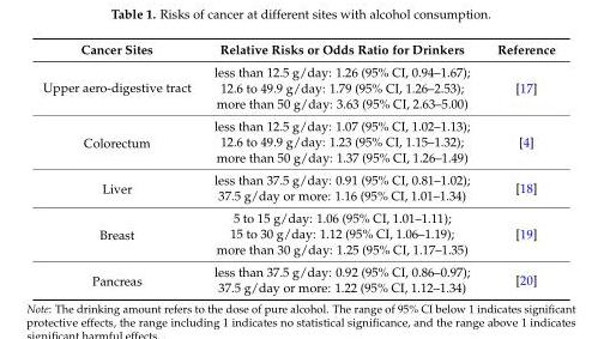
<table><thead><tr><td>Cancer Sites</td><td>Relative Risks or Odds Ratio for Drinkers</td><td>Reference</td></tr></thead><tbody><tr><td rowspan="3">Upper aero-digestive tract</td><td>less than 12.5 g/day: 1.26 (95% CI, 0.94–1.67);</td><td rowspan="3">[17]</td></tr><tr><td>12.6 to 49.9 g/day: 1.79 (95% CI, 1.26–2.53);</td></tr><tr><td>more than 50 g/day: 3.63 (95% CI, 2.63–5.00)</td></tr><tr><td rowspan="3">Colorectum</td><td>less than 12.5 g/day: 1.07 (95% CI, 1.02–1.13);</td><td rowspan="3">[4]</td></tr><tr><td>12.6 to 49.9 g/day: 1.23 (95% CI, 1.15–1.32);</td></tr><tr><td>more than 50 g/day: 1.37 (95% CI, 1.26–1.49)</td></tr><tr><td rowspan="2">Liver</td><td>less than 37.5 g/day: 0.91 (95% CI, 0.81–1.02);</td><td rowspan="2">[18]</td></tr><tr><td>37.5 g/day or more: 1.16 (95% CI, 1.01–1.34)</td></tr><tr><td rowspan="3">Breast</td><td>5 to 15 g/day: 1.06 (95% CI, 1.01–1.11);</td><td rowspan="3">[19]</td></tr><tr><td>15 to 30 g/day: 1.12 (95% CI, 1.06–1.19);</td></tr><tr><td>more than 30 g/day: 1.25 (95% CI, 1.17–1.35)</td></tr><tr><td rowspan="2">Pancreas</td><td>less than 37.5 g/day: 0.92 (95% CI, 0.86–0.97);</td><td rowspan="2">[20]</td></tr><tr><td>37.5 g/day or more: 1.22 (95% CI, 1.12–1.34)</td></tr></tbody></table>